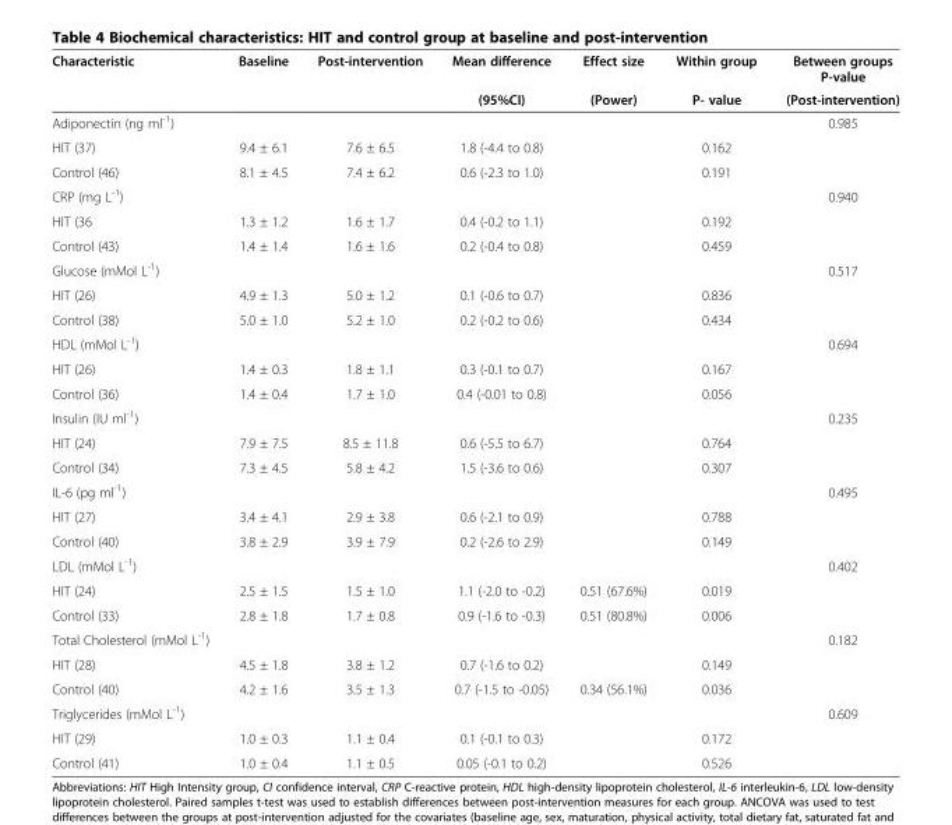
<table><thead><tr><td rowspan="2">Characteristic</td><td rowspan="2">Baseline</td><td rowspan="2">Post-intervention</td><td rowspan="2">Mean difference (95%CI)</td><td rowspan="2">Effect size (Power)</td><td rowspan="2">Within group P- value</td><td rowspan="2">Between groups P-value (Post-intervention)</td></tr><tr></tr></thead><tbody><tr><td>Adiponectin (ng ml<sup>-1</sup>)</td><td></td><td></td><td></td><td></td><td></td><td>0.985</td></tr><tr><td>HIT (37)</td><td>9.4 ± 6.1</td><td>7.6 ± 6.5</td><td>1.8 (-4.4 to 0.8)</td><td></td><td>0.162</td><td rowspan="2"></td></tr><tr><td>Control (46)</td><td>8.1 ± 4.5</td><td>7.4 ± 6.2</td><td>0.6 (-2.3 to 1.0)</td><td></td><td>0.191</td></tr><tr><td>CRP (mg L<sup>-1</sup>)</td><td></td><td></td><td></td><td></td><td></td><td>0.940</td></tr><tr><td>HIT (36</td><td>1.3 ± 1.2</td><td>1.6 ± 1.7</td><td>0.4 (-0.2 to 1.1)</td><td></td><td>0.192</td><td rowspan="2"></td></tr><tr><td>Control (43)</td><td>1.4 ± 1.4</td><td>1.6 ± 1.6</td><td>0.2 (-0.4 to 0.8)</td><td></td><td>0.459</td></tr><tr><td>Glucose (mMol L<sup>-1</sup>)</td><td></td><td></td><td></td><td></td><td></td><td>0.517</td></tr><tr><td>HIT (26)</td><td>4.9 ± 1.3</td><td>5.0 ± 1.2</td><td>0.1 (-0.6 to 0.7)</td><td></td><td>0.836</td><td rowspan="2"></td></tr><tr><td>Control (38)</td><td>5.0 ± 1.0</td><td>5.2 ± 1.0</td><td>0.2 (-0.2 to 0.6)</td><td></td><td>0.434</td></tr><tr><td>HDL (mMol L<sup>-1</sup>)</td><td></td><td></td><td></td><td></td><td></td><td>0.694</td></tr><tr><td>HIT (26)</td><td>1.4 ± 0.3</td><td>1.8 ± 1.1</td><td>0.3 (-0.1 to 0.7)</td><td></td><td>0.167</td><td rowspan="2"></td></tr><tr><td>Control (36)</td><td>1.4 ± 0.4</td><td>1.7 ± 1.0</td><td>0.4 (-0.01 to 0.8)</td><td></td><td>0.056</td></tr><tr><td>Insulin (IU ml<sup>-1</sup>)</td><td></td><td></td><td></td><td></td><td></td><td>0.235</td></tr><tr><td>HIT (24)</td><td>7.9 ± 7.5</td><td>8.5 ± 11.8</td><td>0.6 (-5.5 to 6.7)</td><td></td><td>0.764</td><td rowspan="2"></td></tr><tr><td>Control (34)</td><td>7.3 ± 4.5</td><td>5.8 ± 4.2</td><td>1.5 (-3.6 to 0.6)</td><td></td><td>0.307</td></tr><tr><td>IL-6 (pg ml<sup>-1</sup>)</td><td></td><td></td><td></td><td></td><td></td><td>0.495</td></tr><tr><td>HIT (27)</td><td>3.4 ± 4.1</td><td>2.9 ± 3.8</td><td>0.6 (-2.1 to 0.9)</td><td></td><td>0.788</td><td rowspan="2"></td></tr><tr><td>Control (40)</td><td>3.8 ± 2.9</td><td>3.9 ± 7.9</td><td>0.2 (-2.6 to 2.9)</td><td></td><td>0.149</td></tr><tr><td>LDL (mMol L<sup>-1</sup>)</td><td></td><td></td><td></td><td></td><td></td><td>0.402</td></tr><tr><td>HIT (24)</td><td>2.5 ± 1.5</td><td>1.5 ± 1.0</td><td>1.1 (-2.0 to -0.2)</td><td>0.51 (67.6%)</td><td>0.019</td><td rowspan="2"></td></tr><tr><td>Control (33)</td><td>2.8 ± 1.8</td><td>1.7 ± 0.8</td><td>0.9 (-1.6 to -0.3)</td><td>0.51 (80.8%)</td><td>0.006</td></tr><tr><td>Total Cholesterol (mMol L<sup>-1</sup>)</td><td></td><td></td><td></td><td></td><td></td><td>0.182</td></tr><tr><td>HIT (28)</td><td>4.5 ± 1.8</td><td>3.8 ± 1.2</td><td>0.7 (-1.6 to 0.2)</td><td></td><td>0.149</td><td rowspan="2"></td></tr><tr><td>Control (40)</td><td>4.2 ± 1.6</td><td>3.5 ± 1.3</td><td>0.7 (-1.5 to -0.05)</td><td>0.34 (56.1%)</td><td>0.036</td></tr><tr><td>Triglycerides (mMol L<sup>-1</sup>)</td><td></td><td></td><td></td><td></td><td></td><td>0.609</td></tr><tr><td>HIT (29)</td><td>1.0 ± 0.3</td><td>1.1 ± 0.4</td><td>0.1 (-0.1 to 0.3)</td><td></td><td>0.172</td><td rowspan="2"></td></tr><tr><td>Control (41)</td><td>1.0 ± 0.4</td><td>1.1 ± 0.5</td><td>0.05 (-0.1 to 0.2)</td><td></td><td>0.526</td></tr></tbody></table>